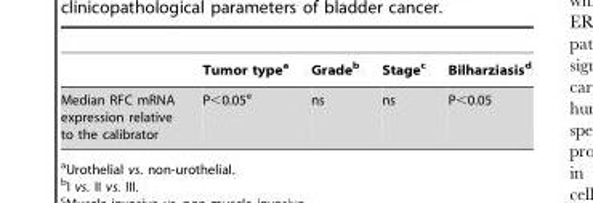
<table><thead><tr><td></td><td>Tumor type<sup>a</sup></td><td>Grade<sup>b</sup></td><td>Stage<sup>c</sup></td><td>Bilharziasis<sup>d</sup></td></tr></thead><tbody><tr><td>Median RFC mRNA expression relative to the calibrator</td><td>P&lt;0.05<sup>e</sup></td><td>ns</td><td>ns</td><td>P&lt;0.05</td></tr></tbody></table>